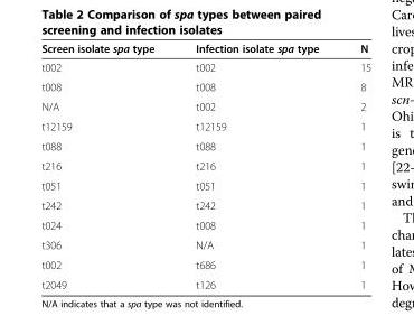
<table><thead><tr><td>Screen isolate spa type</td><td>Infection isolate spa type</td><td>N</td></tr></thead><tbody><tr><td>t002</td><td>t002</td><td>15</td></tr><tr><td>t008</td><td>t008</td><td>8</td></tr><tr><td>N/A</td><td>t002</td><td>2</td></tr><tr><td>t12159</td><td>t12159</td><td>1</td></tr><tr><td>t088</td><td>t088</td><td>1</td></tr><tr><td>t216</td><td>t216</td><td>1</td></tr><tr><td>t051</td><td>t051</td><td>1</td></tr><tr><td>t242</td><td>t242</td><td>1</td></tr><tr><td>t024</td><td>t008</td><td>1</td></tr><tr><td>t306</td><td>N/A</td><td>1</td></tr><tr><td>t002</td><td>t686</td><td>1</td></tr><tr><td>t2049</td><td>t126</td><td>1</td></tr></tbody></table>